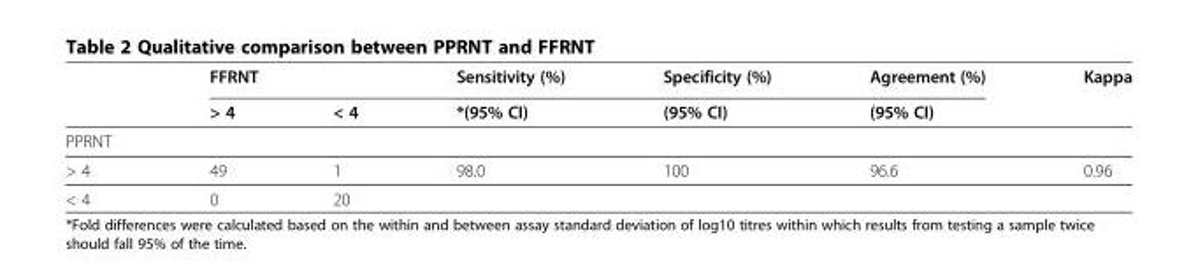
<table><thead><tr><td rowspan="2"></td><td colspan="2">FFRNT</td><td rowspan="2">Sensitivity (%) *(95% CI)</td><td rowspan="2">Specificity (%) (95% CI)</td><td rowspan="2">Agreement (%) (95% CI)</td><td rowspan="2">Kappa</td></tr><tr><td>&gt; 4</td><td>&lt; 4</td></tr></thead><tbody><tr><td colspan="7">PPRNT</td></tr><tr><td>&gt; 4</td><td>49</td><td>1</td><td>98.0</td><td>100</td><td>96.6</td><td>0.96</td></tr><tr><td>&lt; 4</td><td>0</td><td>20</td><td></td><td></td><td></td><td></td></tr></tbody></table>